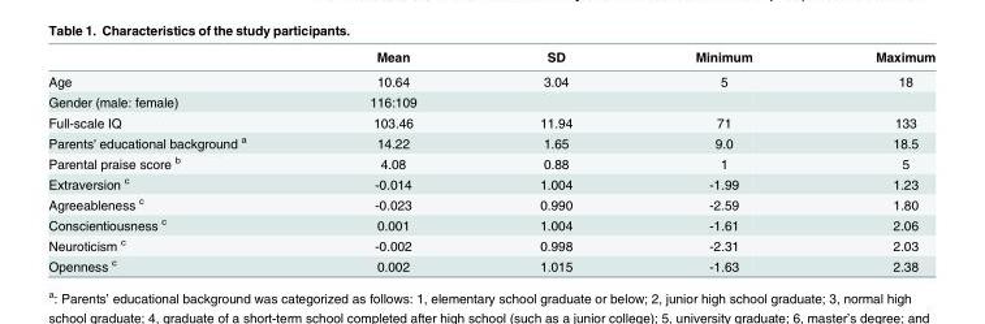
<table><thead><tr><td></td><td>Mean</td><td>SD</td><td>Minimum</td><td>Maximum</td></tr></thead><tbody><tr><td>Age</td><td>10.64</td><td>3.04</td><td>5</td><td>18</td></tr><tr><td>Gender (male: female)</td><td>116:109</td><td></td><td></td><td></td></tr><tr><td>Full-scale IQ</td><td>103.46</td><td>11.94</td><td>71</td><td>133</td></tr><tr><td>Parents&#x27; educational background <sup>a</sup></td><td>14.22</td><td>1.65</td><td>9.0</td><td>18.5</td></tr><tr><td>Parental praise score <sup>b</sup></td><td>4.08</td><td>0.88</td><td>1</td><td>5</td></tr><tr><td>Extraversion <sup>c</sup></td><td>-0.014</td><td>1.004</td><td>-1.99</td><td>1.23</td></tr><tr><td>Agreeableness <sup>c</sup></td><td>-0.023</td><td>0.990</td><td>-2.59</td><td>1.80</td></tr><tr><td>Conscientiousness <sup>c</sup></td><td>0.001</td><td>1.004</td><td>-1.61</td><td>2.06</td></tr><tr><td>Neuroticism <sup>c</sup></td><td>-0.002</td><td>0.998</td><td>-2.31</td><td>2.03</td></tr><tr><td>Openness <sup>c</sup></td><td>0.002</td><td>1.015</td><td>-1.63</td><td>2.38</td></tr></tbody></table>